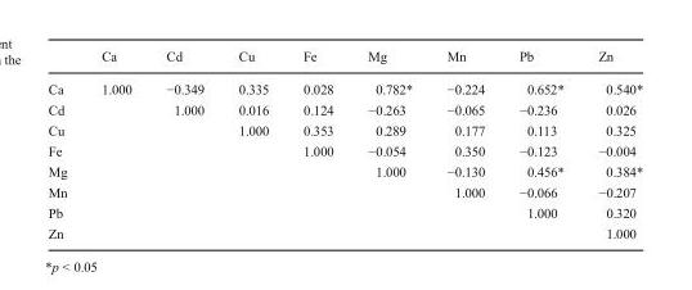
<table><thead><tr><td></td><td>Ca</td><td>Cd</td><td>Cu</td><td>Fe</td><td>Mg</td><td>Mn</td><td>Pb</td><td>Zn</td></tr></thead><tbody><tr><td>Ca</td><td>1.000</td><td>−0.349</td><td>0.335</td><td>0.028</td><td>0.782*</td><td>−0.224</td><td>0.652*</td><td>0.540*</td></tr><tr><td>Cd</td><td></td><td>1.000</td><td>0.016</td><td>0.124</td><td>−0.263</td><td>−0.065</td><td>−0.236</td><td>0.026</td></tr><tr><td>Cu</td><td></td><td></td><td>1.000</td><td>0.353</td><td>0.289</td><td>0.177</td><td>0.113</td><td>0.325</td></tr><tr><td>Fe</td><td></td><td></td><td></td><td>1.000</td><td>−0.054</td><td>0.350</td><td>−0.123</td><td>−0.004</td></tr><tr><td>Mg</td><td></td><td></td><td></td><td></td><td>1.000</td><td>−0.130</td><td>0.456*</td><td>0.384*</td></tr><tr><td>Mn</td><td></td><td></td><td></td><td></td><td></td><td>1.000</td><td>−0.066</td><td>−0.207</td></tr><tr><td>Pb</td><td></td><td></td><td></td><td></td><td></td><td></td><td>1.000</td><td>0.320</td></tr><tr><td>Zn</td><td></td><td></td><td></td><td></td><td></td><td></td><td></td><td>1.000</td></tr></tbody></table>